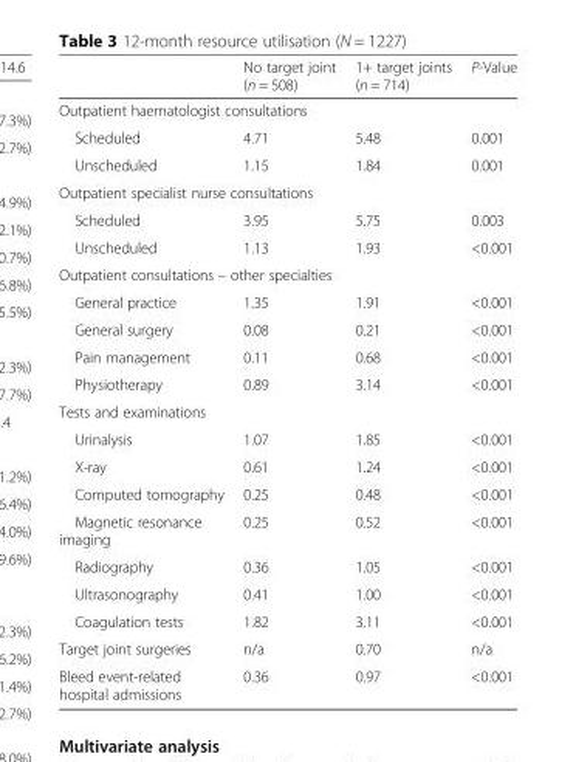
<table><thead><tr><td></td><td>No target joint (n = 508)</td><td>1+ target joints (n = 714)</td><td>P-Value</td></tr></thead><tbody><tr><td colspan="4">Outpatient haematologist consultations</td></tr><tr><td>Scheduled</td><td>4.71</td><td>5.48</td><td>0.001</td></tr><tr><td>Unscheduled</td><td>1.15</td><td>1.84</td><td>0.001</td></tr><tr><td colspan="4">Outpatient specialist nurse consultations</td></tr><tr><td>Scheduled</td><td>3.95</td><td>5.75</td><td>0.003</td></tr><tr><td>Unscheduled</td><td>1.13</td><td>1.93</td><td>&lt;0.001</td></tr><tr><td colspan="4">Outpatient consultations – other specialties</td></tr><tr><td>General practice</td><td>1.35</td><td>1.91</td><td>&lt;0.001</td></tr><tr><td>General surgery</td><td>0.08</td><td>0.21</td><td>&lt;0.001</td></tr><tr><td>Pain management</td><td>0.11</td><td>0.68</td><td>&lt;0.001</td></tr><tr><td>Physiotherapy</td><td>0.89</td><td>3.14</td><td>&lt;0.001</td></tr><tr><td colspan="4">Tests and examinations</td></tr><tr><td>Urinalysis</td><td>1.07</td><td>1.85</td><td>&lt;0.001</td></tr><tr><td>X-ray</td><td>0.61</td><td>1.24</td><td>&lt;0.001</td></tr><tr><td>Computed tomography</td><td>0.25</td><td>0.48</td><td>&lt;0.001</td></tr><tr><td>Magnetic resonance imaging</td><td>0.25</td><td>0.52</td><td>&lt;0.001</td></tr><tr><td>Radiography</td><td>0.36</td><td>1.05</td><td>&lt;0.001</td></tr><tr><td>Ultrasonography</td><td>0.41</td><td>1.00</td><td>&lt;0.001</td></tr><tr><td>Coagulation tests</td><td>1.82</td><td>3.11</td><td>&lt;0.001</td></tr><tr><td>Target joint surgeries</td><td>n/a</td><td>0.70</td><td>n/a</td></tr><tr><td>Bleed event-related hospital admissions</td><td>0.36</td><td>0.97</td><td>&lt;0.001</td></tr></tbody></table>